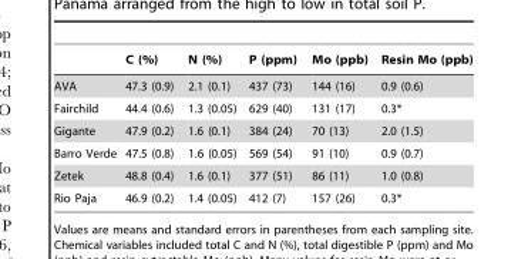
<table><thead><tr><td></td><td>C (%)</td><td>N (%)</td><td>P (ppm)</td><td>Mo (ppb)</td><td>Resin Mo (ppb)</td></tr></thead><tbody><tr><td>AVA</td><td>47.3 (0.9)</td><td>2.1 (0.1)</td><td>437 (73)</td><td>144 (16)</td><td>0.9 (0.6)</td></tr><tr><td>Fairchild</td><td>44.4 (0.6)</td><td>1.3 (0.05)</td><td>629 (40)</td><td>131 (17)</td><td>0.3*</td></tr><tr><td>Gigante</td><td>47.9 (0.2)</td><td>1.6 (0.1)</td><td>384 (24)</td><td>70 (13)</td><td>2.0 (1.5)</td></tr><tr><td>Barro Verde</td><td>47.5 (0.8)</td><td>1.6 (0.05)</td><td>569 (54)</td><td>91 (10)</td><td>0.9 (0.7)</td></tr><tr><td>Zetek</td><td>48.8 (0.4)</td><td>1.6 (0.1)</td><td>377 (51)</td><td>86 (11)</td><td>1.0 (0.8)</td></tr><tr><td>Rio Paja</td><td>46.9 (0.2)</td><td>1.4 (0.05)</td><td>412 (7)</td><td>157 (26)</td><td>0.3*</td></tr></tbody></table>